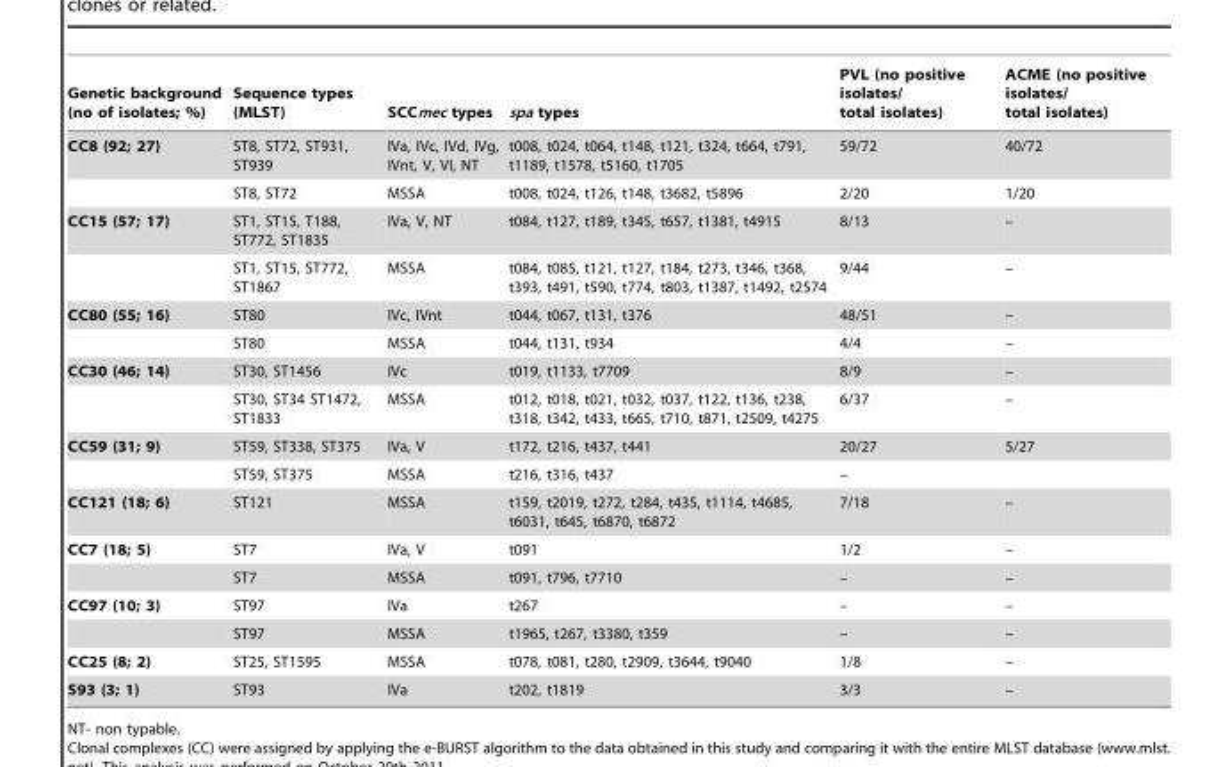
<table><thead><tr><td>Genetic background (no of isolates; %)</td><td>Sequence types (MLST)</td><td>SCCmec types</td><td>spa types</td><td>PVL (no positive isolates/ total isolates)</td><td>ACME (no positive isolates/ total isolates)</td></tr></thead><tbody><tr><td rowspan="2">CC8 (92; 27)</td><td>ST8, ST72, ST931, ST939</td><td>IVa, IVc, IVd, IVg, IVnt, V, VI, NT</td><td>t008, t024, t064, t148, t121, t324, t664, t791, t1189, t1578, t5160, t1705</td><td>59/72</td><td>40/72</td></tr><tr><td>ST8, ST72</td><td>MSSA</td><td>t008, t024, t126, t148, t3682, t5896</td><td>2/20</td><td>1/20</td></tr><tr><td rowspan="2">CC15 (57; 17)</td><td>ST1, ST15, T188, ST772, ST1835</td><td>IVa, V, NT</td><td>t084, t127, t189, t345, t657, t1381, t4915</td><td>8/13</td><td>–</td></tr><tr><td>ST1, ST15, ST772, ST1867</td><td>MSSA</td><td>t084, t085, t121, t127, t184, t273, t346, t368, t393, t491, t590, t774, t803, t1387, t1492, t2574</td><td>9/44</td><td>–</td></tr><tr><td rowspan="2">CC80 (55; 16)</td><td>ST80</td><td>IVc, IVnt</td><td>t044, t067, t131, t376</td><td>48/51</td><td>–</td></tr><tr><td>ST80</td><td>MSSA</td><td>t044, t131, t934</td><td>4/4</td><td>–</td></tr><tr><td rowspan="2">CC30 (46; 14)</td><td>ST30, ST1456</td><td>IVc</td><td>t019, t1133, t7709</td><td>8/9</td><td>–</td></tr><tr><td>ST30, ST34 ST1472, ST1833</td><td>MSSA</td><td>t012, t018, t021, t032, t037, t122, t136, t238, t318, t342, t433, t665, t710, t871, t2509, t4275</td><td>6/37</td><td>–</td></tr><tr><td rowspan="2">CC59 (31; 9)</td><td>ST59, ST338, ST375</td><td>IVa, V</td><td>t172, t216, t437, t441</td><td>20/27</td><td>5/27</td></tr><tr><td>ST59, ST375</td><td>MSSA</td><td>t216, t316, t437</td><td>–</td><td></td></tr><tr><td>CC121 (18; 6)</td><td>ST121</td><td>MSSA</td><td>t159, t2019, t272, t284, t435, t1114, t4685, t6031, t645, t6870, t6872</td><td>7/18</td><td>–</td></tr><tr><td rowspan="2">CC7 (18; 5)</td><td>ST7</td><td>IVa, V</td><td>t091</td><td>1/2</td><td>–</td></tr><tr><td>ST7</td><td>MSSA</td><td>t091, t796, t7710</td><td>–</td><td>–</td></tr><tr><td rowspan="2">CC97 (10; 3)</td><td>ST97</td><td>IVa</td><td>t267</td><td>–</td><td>–</td></tr><tr><td>ST97</td><td>MSSA</td><td>t1965, t267, t3380, t359</td><td>–</td><td>–</td></tr><tr><td>CC25 (8; 2)</td><td>ST25, ST1595</td><td>MSSA</td><td>t078, t081, t280, t2909, t3644, t9040</td><td>1/8</td><td>–</td></tr><tr><td>S93 (3; 1)</td><td>ST93</td><td>IVa</td><td>t202, t1819</td><td>3/3</td><td>–</td></tr></tbody></table>